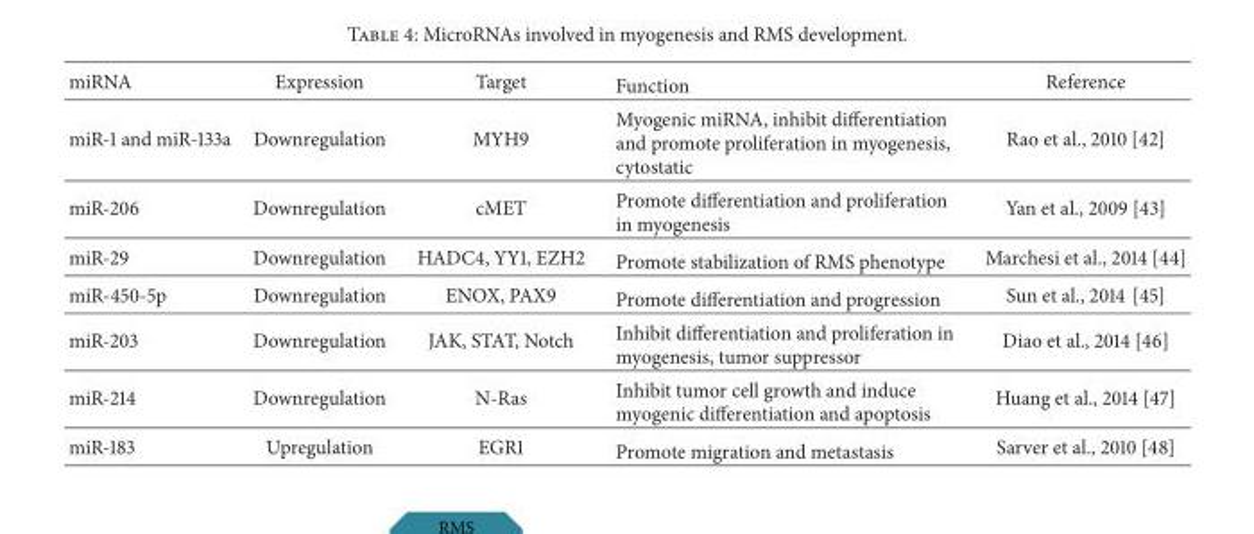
<table><thead><tr><td>miRNA</td><td>Expression</td><td>Target</td><td>Function</td><td>Reference</td></tr></thead><tbody><tr><td>miR-1 and miR-133a</td><td>Downregulation</td><td>MYH9</td><td>Myogenic miRNA, inhibit differentiation and promote proliferation in myogenesis, cytostatic</td><td>Rao et al., 2010 [42]</td></tr><tr><td>miR-206</td><td>Downregulation</td><td>cMET</td><td>Promote differentiation and proliferation in myogenesis</td><td>Yan et al., 2009 [43]</td></tr><tr><td>miR-29</td><td>Downregulation</td><td>HADC4, YY1, EZH2</td><td>Promote stabilization of RMS phenotype</td><td>Marchesi et al., 2014 [44]</td></tr><tr><td>miR-450-5p</td><td>Downregulation</td><td>ENOX, PAX9</td><td>Promote differentiation and progression</td><td>Sun et al., 2014 [45]</td></tr><tr><td>miR-203</td><td>Downregulation</td><td>JAK, STAT, Notch</td><td>Inhibit differentiation and proliferation in myogenesis, tumor suppressor</td><td>Diao et al., 2014 [46]</td></tr><tr><td>miR-214</td><td>Downregulation</td><td>N-Ras</td><td>Inhibit tumor cell growth and induce myogenic differentiation and apoptosis</td><td>Huang et al., 2014 [47]</td></tr><tr><td>miR-183</td><td>Upregulation</td><td>EGR1</td><td>Promote migration and metastasis</td><td>Sarver et al., 2010 [48]</td></tr></tbody></table>